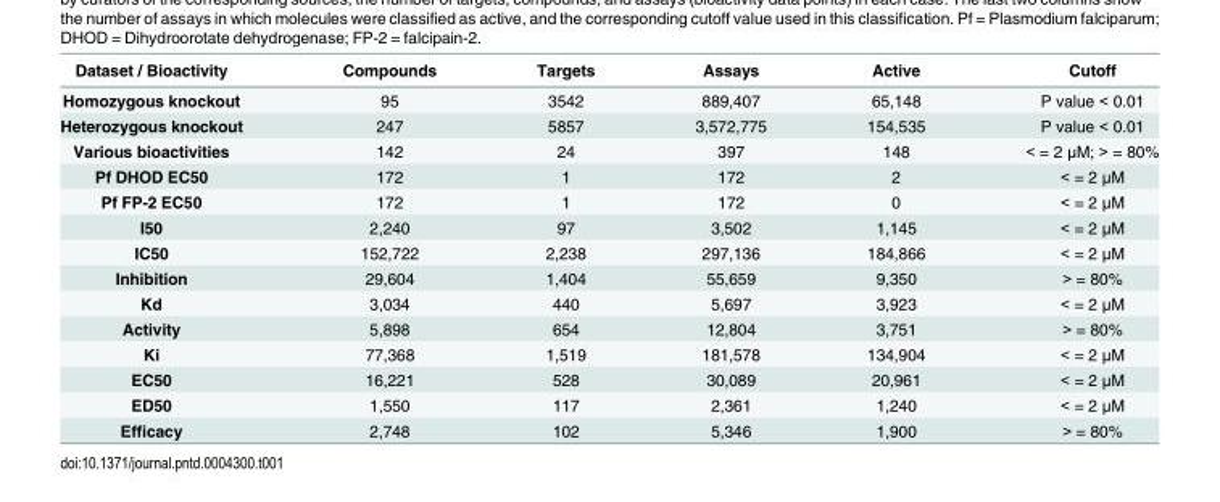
<table><thead><tr><td>Dataset / Bioactivity</td><td>Compounds</td><td>Targets</td><td>Assays</td><td>Active</td><td>Cutoff</td></tr></thead><tbody><tr><td>Homozygous knockout</td><td>95</td><td>3542</td><td>889,407</td><td>65,148</td><td>P value &lt; 0.01</td></tr><tr><td>Heterozygous knockout</td><td>247</td><td>5857</td><td>3,572,775</td><td>154,535</td><td>P value &lt; 0.01</td></tr><tr><td>Various bioactivities</td><td>142</td><td>24</td><td>397</td><td>148</td><td>&lt; = 2 μM; &gt; = 80%</td></tr><tr><td>Pf DHOD EC50</td><td>172</td><td>1</td><td>172</td><td>2</td><td>&lt; = 2 μM</td></tr><tr><td>Pf FP-2 EC50</td><td>172</td><td>1</td><td>172</td><td>0</td><td>&lt; = 2 μM</td></tr><tr><td>I50</td><td>2,240</td><td>97</td><td>3,502</td><td>1,145</td><td>&lt; = 2 μM</td></tr><tr><td>IC50</td><td>152,722</td><td>2,238</td><td>297,136</td><td>184,866</td><td>&lt; = 2 μM</td></tr><tr><td>Inhibition</td><td>29,604</td><td>1,404</td><td>55,659</td><td>9,350</td><td>&gt; = 80%</td></tr><tr><td>Kd</td><td>3,034</td><td>440</td><td>5,697</td><td>3,923</td><td>&lt; = 2 μM</td></tr><tr><td>Activity</td><td>5,898</td><td>654</td><td>12,804</td><td>3,751</td><td>&gt; = 80%</td></tr><tr><td>Ki</td><td>77,368</td><td>1,519</td><td>181,578</td><td>134,904</td><td>&lt; = 2 μM</td></tr><tr><td>EC50</td><td>16,221</td><td>528</td><td>30,089</td><td>20,961</td><td>&lt; = 2 μM</td></tr><tr><td>ED50</td><td>1,550</td><td>117</td><td>2,361</td><td>1,240</td><td>&lt; = 2 μM</td></tr><tr><td>Efficacy</td><td>2,748</td><td>102</td><td>5,346</td><td>1,900</td><td>&gt; = 80%</td></tr></tbody></table>